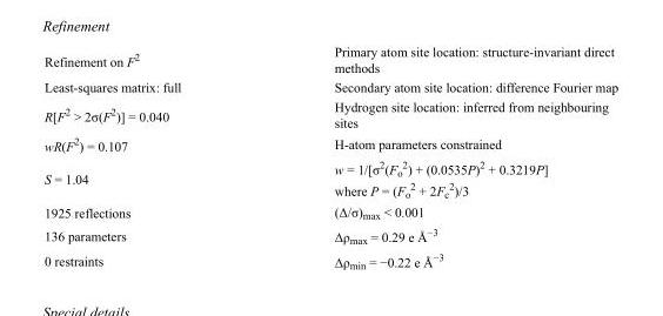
<table><tbody><tr><td>Refinement on F<sup>2</sup></td><td>Primary atom site location: structure-invariant direct methods</td></tr><tr><td>Least-squares matrix: full</td><td>Secondary atom site location: difference Fourier map</td></tr><tr><td>R[F<sup>2</sup> &gt; 2σ(F<sup>2</sup>)] = 0.040</td><td>Hydrogen site location: inferred from neighbouring sites</td></tr><tr><td>wR(F<sup>2</sup>) = 0.107</td><td>H-atom parameters constrained</td></tr><tr><td>S = 1.04</td><td>w = 1/[σ<sup>2</sup>(F<sub>o</sub> <sup>2</sup>) + (0.0535P)<sup>2</sup> + 0.3219P] where P = (F<sub>o</sub> <sup>2</sup> + 2F<sub>c</sub> <sup>2</sup>)/3</td></tr><tr><td>1925 reflections</td><td>(Δ/σ)<sub>max</sub> &lt; 0.001</td></tr><tr><td>136 parameters</td><td>Δρ<sub>max</sub> = 0.29 e Å<sup>−3</sup></td></tr><tr><td>0 restraints</td><td>Δρ<sub>min</sub> = −0.22 e Å<sup>−3</sup></td></tr></tbody></table>